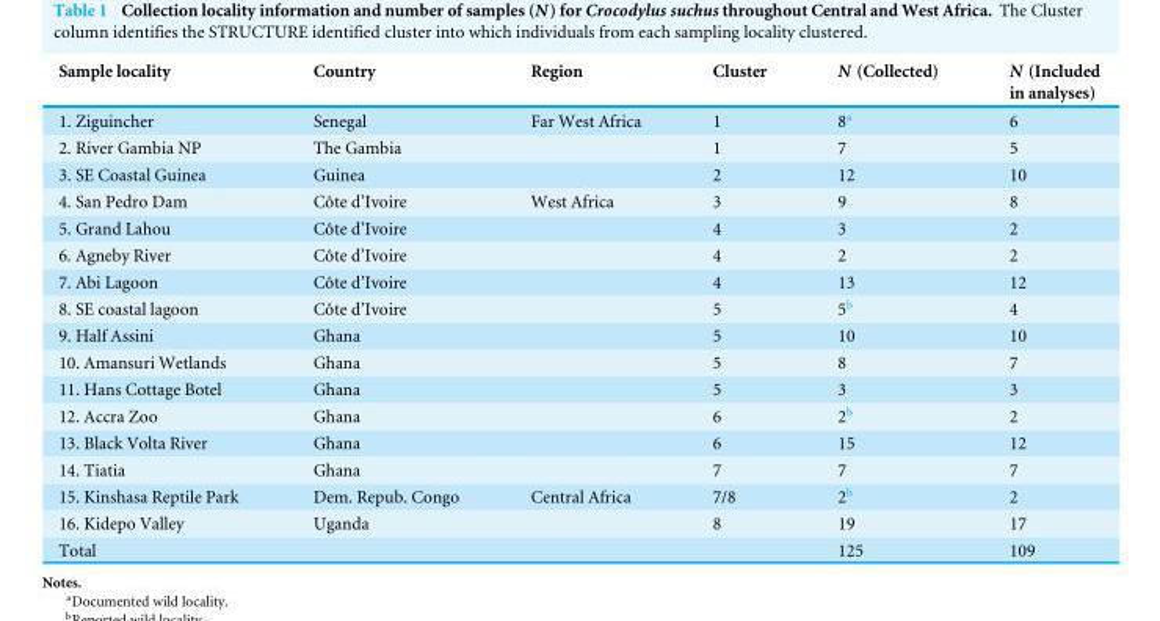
<table><thead><tr><td>Sample locality</td><td>Country</td><td>Region</td><td>Cluster</td><td>N (Collected)</td><td>N (Included in analyses)</td></tr></thead><tbody><tr><td>1. Ziguincher</td><td>Senegal</td><td>Far West Africa</td><td>1</td><td>8<sup>a</sup></td><td>6</td></tr><tr><td>2. River Gambia NP</td><td>The Gambia</td><td></td><td>1</td><td>7</td><td>5</td></tr><tr><td>3. SE Coastal Guinea</td><td>Guinea</td><td></td><td>2</td><td>12</td><td>10</td></tr><tr><td>4. San Pedro Dam</td><td>Côte d’Ivoire</td><td>West Africa</td><td>3</td><td>9</td><td>8</td></tr><tr><td>5. Grand Lahou</td><td>Côte d’Ivoire</td><td></td><td>4</td><td>3</td><td>2</td></tr><tr><td>6. Agneby River</td><td>Côte d’Ivoire</td><td></td><td>4</td><td>2</td><td>2</td></tr><tr><td>7. Abi Lagoon</td><td>Côte d’Ivoire</td><td></td><td>4</td><td>13</td><td>12</td></tr><tr><td>8. SE coastal lagoon</td><td>Côte d’Ivoire</td><td></td><td>5</td><td>5<sup>b</sup></td><td>4</td></tr><tr><td>9. Half Assini</td><td>Ghana</td><td></td><td>5</td><td>10</td><td>10</td></tr><tr><td>10. Amansuri Wetlands</td><td>Ghana</td><td></td><td>5</td><td>8</td><td>7</td></tr><tr><td>11. Hans Cottage Botel</td><td>Ghana</td><td></td><td>5</td><td>3</td><td>3</td></tr><tr><td>12. Accra Zoo</td><td>Ghana</td><td></td><td>6</td><td>2<sup>b</sup></td><td>2</td></tr><tr><td>13. Black Volta River</td><td>Ghana</td><td></td><td>6</td><td>15</td><td>12</td></tr><tr><td>14. Tiatia</td><td>Ghana</td><td></td><td>7</td><td>7</td><td>7</td></tr><tr><td>15. Kinshasa Reptile Park</td><td>Dem. Repub. Congo</td><td>Central Africa</td><td>7/8</td><td>2<sup>b</sup></td><td>2</td></tr><tr><td>16. Kidepo Valley</td><td>Uganda</td><td></td><td>8</td><td>19</td><td>17</td></tr><tr><td>Total</td><td></td><td></td><td></td><td>125</td><td>109</td></tr></tbody></table>